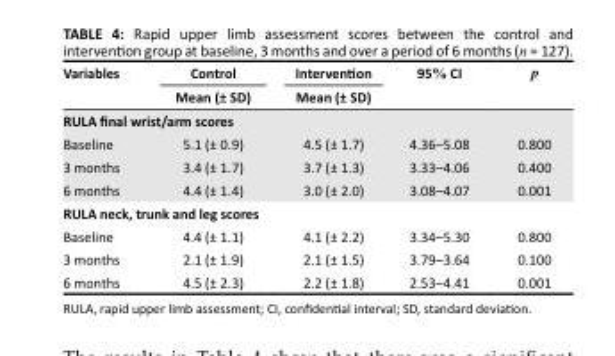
<table><thead><tr><td rowspan="2">Variables</td><td rowspan="2">Control Mean (± SD)</td><td rowspan="2">Intervention Mean (± SD)</td><td rowspan="2">95% CI</td><td rowspan="2">p</td></tr><tr></tr></thead><tbody><tr><td colspan="5">RULA final wrist/arm scores</td></tr><tr><td>Baseline</td><td>5.1 (± 0.9)</td><td>4.5 (± 1.7)</td><td>4.36–5.08</td><td>0.800</td></tr><tr><td>3 months</td><td>3.4 (± 1.7)</td><td>3.7 (± 1.3)</td><td>3.33–4.06</td><td>0.400</td></tr><tr><td>6 months</td><td>4.4 (± 1.4)</td><td>3.0 (± 2.0)</td><td>3.08–4.07</td><td>0.001</td></tr><tr><td colspan="5">RULA neck, trunk and leg scores</td></tr><tr><td>Baseline</td><td>4.4 (± 1.1)</td><td>4.1 (± 2.2)</td><td>3.34–5.30</td><td>0.800</td></tr><tr><td>3 months</td><td>2.1 (± 1.9)</td><td>2.1 (± 1.5)</td><td>3.79–3.64</td><td>0.100</td></tr><tr><td>6 months</td><td>4.5 (± 2.3)</td><td>2.2 (± 1.8)</td><td>2.53–4.41</td><td>0.001</td></tr></tbody></table>